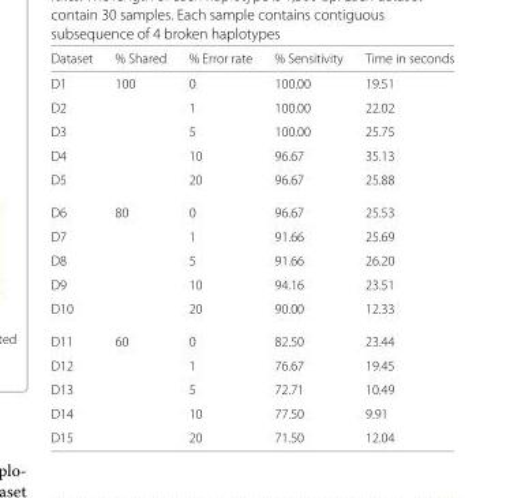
<table><thead><tr><td>Dataset</td><td>% Shared</td><td>% Error rate</td><td>% Sensitivity</td><td>Time in seconds</td></tr></thead><tbody><tr><td>D1</td><td>100</td><td>0</td><td>100.00</td><td>19.51</td></tr><tr><td>D2</td><td></td><td>1</td><td>100.00</td><td>22.02</td></tr><tr><td>D3</td><td></td><td>5</td><td>100.00</td><td>25.75</td></tr><tr><td>D4</td><td></td><td>10</td><td>96.67</td><td>35.13</td></tr><tr><td>D5</td><td></td><td>20</td><td>96.67</td><td>25.88</td></tr><tr><td>D6</td><td>80</td><td>0</td><td>96.67</td><td>25.53</td></tr><tr><td>D7</td><td></td><td>1</td><td>91.66</td><td>25.69</td></tr><tr><td>D8</td><td></td><td>5</td><td>91.66</td><td>26.20</td></tr><tr><td>D9</td><td></td><td>10</td><td>94.16</td><td>23.51</td></tr><tr><td>D10</td><td></td><td>20</td><td>90.00</td><td>12.33</td></tr><tr><td>D11</td><td>60</td><td>0</td><td>82.50</td><td>23.44</td></tr><tr><td>D12</td><td></td><td>1</td><td>76.67</td><td>19.45</td></tr><tr><td>D13</td><td></td><td>5</td><td>72.71</td><td>10.49</td></tr><tr><td>D14</td><td></td><td>10</td><td>77.50</td><td>9.91</td></tr><tr><td>D15</td><td></td><td>20</td><td>71.50</td><td>12.04</td></tr></tbody></table>